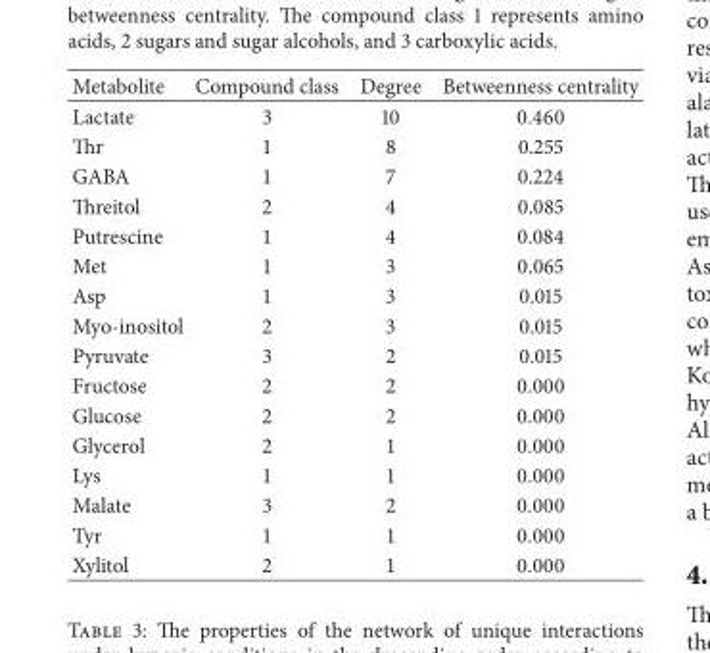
<table><thead><tr><td>Metabolite</td><td>Compound class</td><td>Degree</td><td>Betweenness centrality</td></tr></thead><tbody><tr><td>Lactate</td><td>3</td><td>10</td><td>0.460</td></tr><tr><td>Thr</td><td>1</td><td>8</td><td>0.255</td></tr><tr><td>GABA</td><td>1</td><td>7</td><td>0.224</td></tr><tr><td>Threitol</td><td>2</td><td>4</td><td>0.085</td></tr><tr><td>Putrescine</td><td>1</td><td>4</td><td>0.084</td></tr><tr><td>Met</td><td>1</td><td>3</td><td>0.065</td></tr><tr><td>Asp</td><td>1</td><td>3</td><td>0.015</td></tr><tr><td>Myo-inositol</td><td>2</td><td>3</td><td>0.015</td></tr><tr><td>Pyruvate</td><td>3</td><td>2</td><td>0.015</td></tr><tr><td>Fructose</td><td>2</td><td>2</td><td>0.000</td></tr><tr><td>Glucose</td><td>2</td><td>2</td><td>0.000</td></tr><tr><td>Glycerol</td><td>2</td><td>1</td><td>0.000</td></tr><tr><td>Lys</td><td>1</td><td>1</td><td>0.000</td></tr><tr><td>Malate</td><td>3</td><td>2</td><td>0.000</td></tr><tr><td>Tyr</td><td>1</td><td>1</td><td>0.000</td></tr><tr><td>Xylitol</td><td>2</td><td>1</td><td>0.000</td></tr></tbody></table>